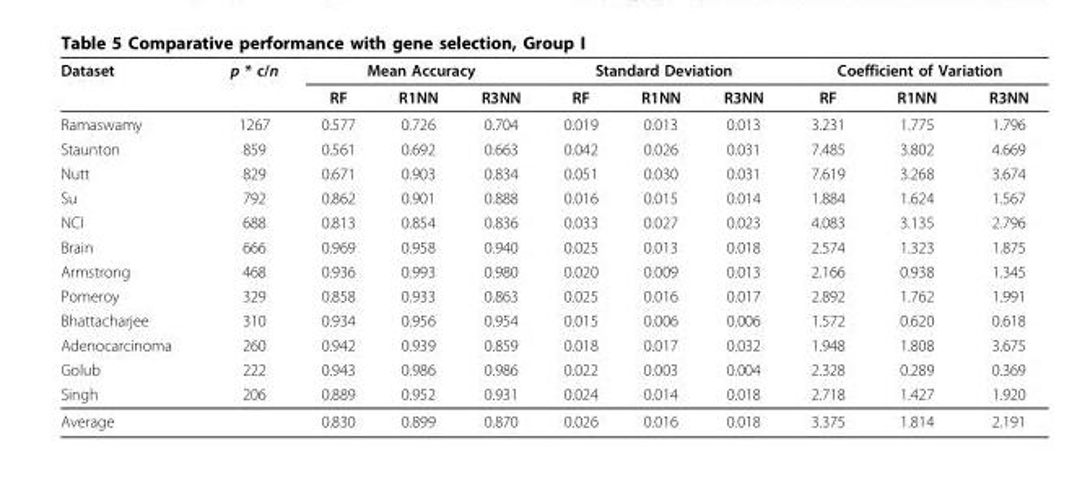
<table><thead><tr><td rowspan="2">Dataset</td><td rowspan="2">p * c/n</td><td colspan="3">Mean Accuracy</td><td colspan="3">Standard Deviation</td><td colspan="3">Coefficient of Variation</td></tr><tr><td>RF</td><td>R1NN</td><td>R3NN</td><td>RF</td><td>R1NN</td><td>R3NN</td><td>RF</td><td>R1NN</td><td>R3NN</td></tr></thead><tbody><tr><td>Ramaswamy</td><td>1267</td><td>0.577</td><td>0.726</td><td>0.704</td><td>0.019</td><td>0.013</td><td>0.013</td><td>3.231</td><td>1.775</td><td>1.796</td></tr><tr><td>Staunton</td><td>859</td><td>0.561</td><td>0.692</td><td>0.663</td><td>0.042</td><td>0.026</td><td>0.031</td><td>7.485</td><td>3.802</td><td>4.669</td></tr><tr><td>Nutt</td><td>829</td><td>0.671</td><td>0.903</td><td>0.834</td><td>0.051</td><td>0.030</td><td>0.031</td><td>7.619</td><td>3.268</td><td>3.674</td></tr><tr><td>Su</td><td>792</td><td>0.862</td><td>0.901</td><td>0.888</td><td>0.016</td><td>0.015</td><td>0.014</td><td>1.884</td><td>1.624</td><td>1.567</td></tr><tr><td>NCI</td><td>688</td><td>0.813</td><td>0.854</td><td>0.836</td><td>0.033</td><td>0.027</td><td>0.023</td><td>4.083</td><td>3.135</td><td>2.796</td></tr><tr><td>Brain</td><td>666</td><td>0.969</td><td>0.958</td><td>0.940</td><td>0.025</td><td>0.013</td><td>0.018</td><td>2.574</td><td>1.323</td><td>1.875</td></tr><tr><td>Armstrong</td><td>468</td><td>0.936</td><td>0.993</td><td>0.980</td><td>0.020</td><td>0.009</td><td>0.013</td><td>2.166</td><td>0.938</td><td>1.345</td></tr><tr><td>Pomeroy</td><td>329</td><td>0.858</td><td>0.933</td><td>0.863</td><td>0.025</td><td>0.016</td><td>0.017</td><td>2.892</td><td>1.762</td><td>1.991</td></tr><tr><td>Bhattacharjee</td><td>310</td><td>0.934</td><td>0.956</td><td>0.954</td><td>0.015</td><td>0.006</td><td>0.006</td><td>1.572</td><td>0.620</td><td>0.618</td></tr><tr><td>Adenocarcinoma</td><td>260</td><td>0.942</td><td>0.939</td><td>0.859</td><td>0.018</td><td>0.017</td><td>0.032</td><td>1.948</td><td>1.808</td><td>3.675</td></tr><tr><td>Golub</td><td>222</td><td>0.943</td><td>0.986</td><td>0.986</td><td>0.022</td><td>0.003</td><td>0.004</td><td>2.328</td><td>0.289</td><td>0.369</td></tr><tr><td>Singh</td><td>206</td><td>0.889</td><td>0.952</td><td>0.931</td><td>0.024</td><td>0.014</td><td>0.018</td><td>2.718</td><td>1.427</td><td>1.920</td></tr><tr><td>Average</td><td></td><td>0.830</td><td>0.899</td><td>0.870</td><td>0.026</td><td>0.016</td><td>0.018</td><td>3.375</td><td>1.814</td><td>2.191</td></tr></tbody></table>